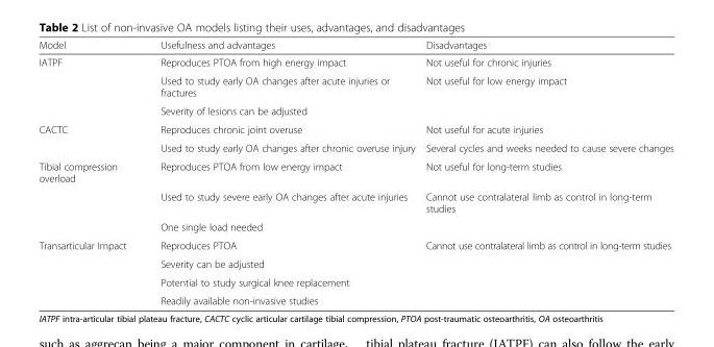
<table><thead><tr><td>Model</td><td>Usefulness and advantages</td><td>Disadvantages</td></tr></thead><tbody><tr><td rowspan="3">IATPF</td><td>Reproduces PTOA from high energy impact</td><td>Not useful for chronic injuries</td></tr><tr><td>Used to study early OA changes after acute injuries or fractures</td><td>Not useful for low energy impact</td></tr><tr><td>Severity of lesions can be adjusted</td><td></td></tr><tr><td rowspan="2">CACTC</td><td>Reproduces chronic joint overuse</td><td>Not useful for acute injuries</td></tr><tr><td>Used to study early OA changes after chronic overuse injury</td><td>Several cycles and weeks needed to cause severe changes</td></tr><tr><td rowspan="3">Tibial compression overload</td><td>Reproduces PTOA from low energy impact</td><td>Not useful for long-term studies</td></tr><tr><td>Used to study severe early OA changes after acute injuries</td><td>Cannot use contralateral limb as control in long-term studies</td></tr><tr><td>One single load needed</td><td></td></tr><tr><td rowspan="4">Transarticular Impact</td><td>Reproduces PTOA</td><td>Cannot use contralateral limb as control in long-term studies</td></tr><tr><td>Severity can be adjusted</td><td></td></tr><tr><td>Potential to study surgical knee replacement</td><td></td></tr><tr><td>Readily available non-invasive studies</td><td></td></tr></tbody></table>